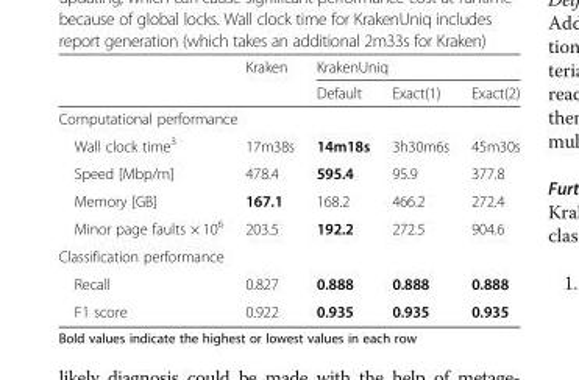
<table><thead><tr><td rowspan="2"></td><td rowspan="2">Kraken</td><td colspan="3">KrakenUniq</td></tr><tr><td>Default</td><td>Exact(1)</td><td>Exact(2)</td></tr></thead><tbody><tr><td colspan="5">Computational performance</td></tr><tr><td>Wall clock time<sup>3</sup></td><td>17m38s</td><td>14m18s</td><td>3h30m6s</td><td>45m30s</td></tr><tr><td>Speed [Mbp/m]</td><td>478.4</td><td>595.4</td><td>95.9</td><td>377.8</td></tr><tr><td>Memory [GB]</td><td>167.1</td><td>168.2</td><td>466.2</td><td>272.4</td></tr><tr><td>Minor page faults × 10<sup>6</sup></td><td>203.5</td><td>192.2</td><td>272.5</td><td>904.6</td></tr><tr><td colspan="5">Classification performance</td></tr><tr><td>Recall</td><td>0.827</td><td>0.888</td><td>0.888</td><td>0.888</td></tr><tr><td>F1 score</td><td>0.922</td><td>0.935</td><td>0.935</td><td>0.935</td></tr></tbody></table>